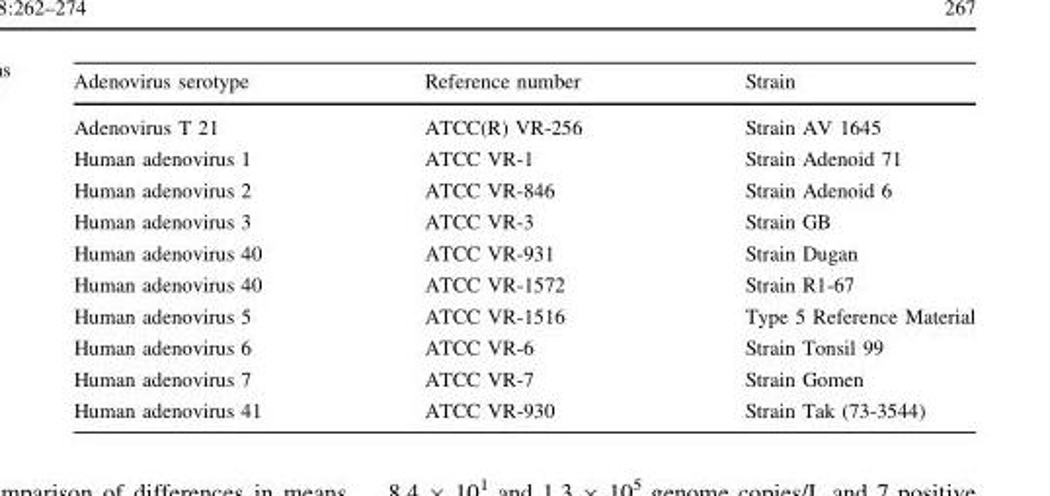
<table><thead><tr><td>Adenovirus serotype</td><td>Reference number</td><td>Strain</td></tr></thead><tbody><tr><td>Adenovirus T 21</td><td>ATCC(R) VR-256</td><td>Strain AV 1645</td></tr><tr><td>Human adenovirus 1</td><td>ATCC VR-1</td><td>Strain Adenoid 71</td></tr><tr><td>Human adenovirus 2</td><td>ATCC VR-846</td><td>Strain Adenoid 6</td></tr><tr><td>Human adenovirus 3</td><td>ATCC VR-3</td><td>Strain GB</td></tr><tr><td>Human adenovirus 40</td><td>ATCC VR-931</td><td>Strain Dugan</td></tr><tr><td>Human adenovirus 40</td><td>ATCC VR-1572</td><td>Strain R1-67</td></tr><tr><td>Human adenovirus 5</td><td>ATCC VR-1516</td><td>Type 5 Reference Material</td></tr><tr><td>Human adenovirus 6</td><td>ATCC VR-6</td><td>Strain Tonsil 99</td></tr><tr><td>Human adenovirus 7</td><td>ATCC VR-7</td><td>Strain Gomen</td></tr><tr><td>Human adenovirus 41</td><td>ATCC VR-930</td><td>Strain Tak (73-3544)</td></tr></tbody></table>